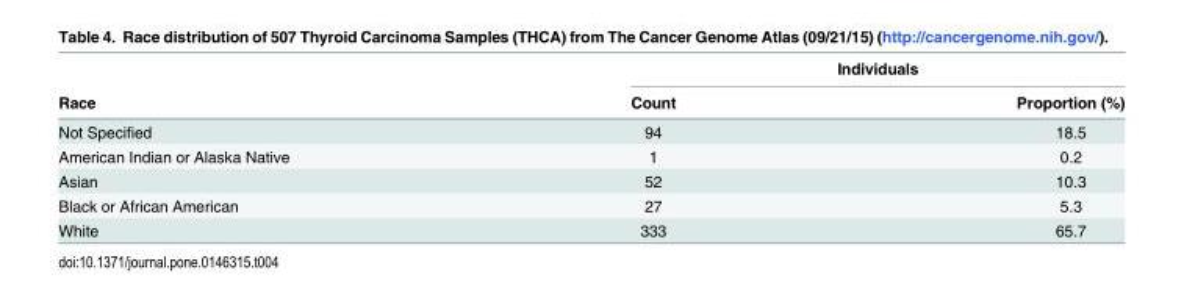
<table><thead><tr><td rowspan="2">Race</td><td colspan="2">Individuals</td></tr><tr><td>Count</td><td>Proportion (%)</td></tr></thead><tbody><tr><td>Not Specified</td><td>94</td><td>18.5</td></tr><tr><td>American Indian or Alaska Native</td><td>1</td><td>0.2</td></tr><tr><td>Asian</td><td>52</td><td>10.3</td></tr><tr><td>Black or African American</td><td>27</td><td>5.3</td></tr><tr><td>White</td><td>333</td><td>65.7</td></tr></tbody></table>